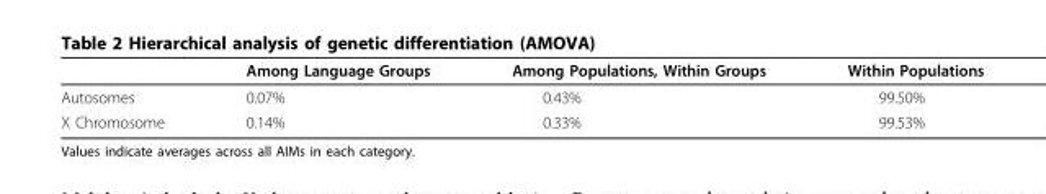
<table><thead><tr><td></td><td>Among Language Groups</td><td>Among Populations, Within Groups</td><td>Within Populations</td></tr></thead><tbody><tr><td>Autosomes</td><td>0.07%</td><td>0.43%</td><td>99.50%</td></tr><tr><td>X Chromosome</td><td>0.14%</td><td>0.33%</td><td>99.53%</td></tr></tbody></table>